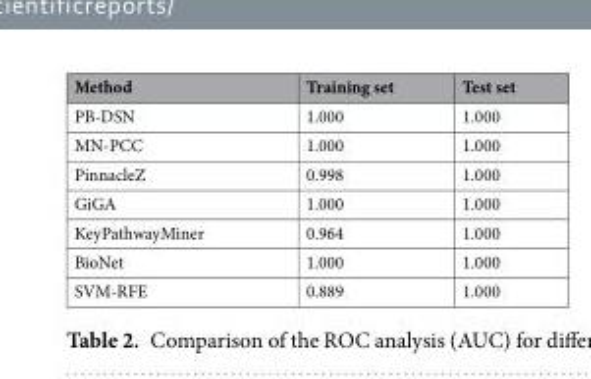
<table><thead><tr><td>Method</td><td>Training set</td><td>Test set</td></tr></thead><tbody><tr><td>PB-DSN</td><td>1.000</td><td>1.000</td></tr><tr><td>MN-PCC</td><td>1.000</td><td>1.000</td></tr><tr><td>PinnacleZ</td><td>0.998</td><td>1.000</td></tr><tr><td>GiGA</td><td>1.000</td><td>1.000</td></tr><tr><td>KeyPathwayMiner</td><td>0.964</td><td>1.000</td></tr><tr><td>BioNet</td><td>1.000</td><td>1.000</td></tr><tr><td>SVM-RFE</td><td>0.889</td><td>1.000</td></tr></tbody></table>